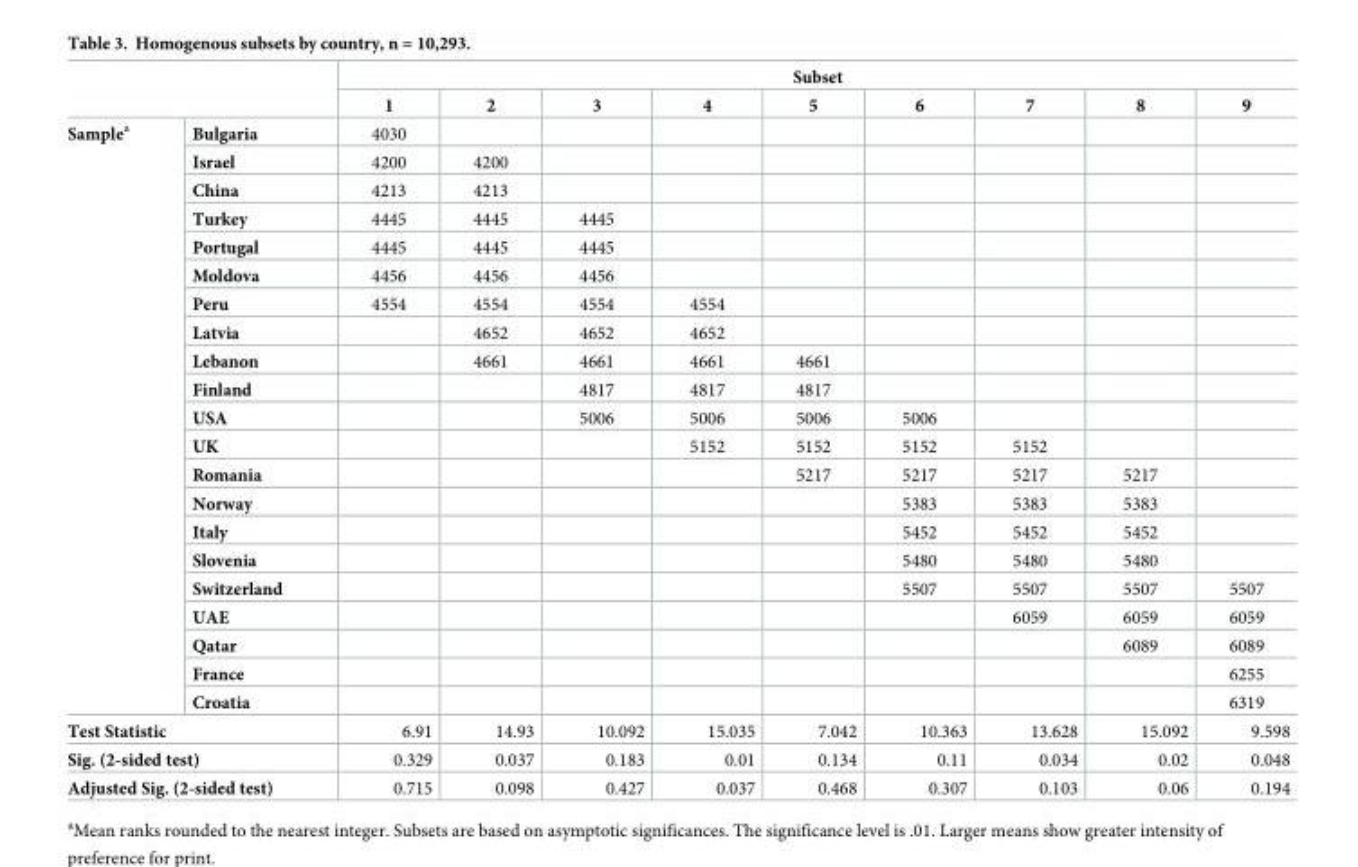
<table><thead><tr><td rowspan="2"></td><td rowspan="2"></td><td colspan="9">Subset</td></tr><tr><td>1</td><td>2</td><td>3</td><td>4</td><td>5</td><td>6</td><td>7</td><td>8</td><td>9</td></tr></thead><tbody><tr><td rowspan="21">Sample<sup>a</sup></td><td>Bulgaria</td><td>4030</td><td></td><td></td><td></td><td></td><td></td><td></td><td></td><td></td></tr><tr><td>Israel</td><td>4200</td><td>4200</td><td></td><td></td><td></td><td></td><td></td><td></td><td></td></tr><tr><td>China</td><td>4213</td><td>4213</td><td></td><td></td><td></td><td></td><td></td><td></td><td></td></tr><tr><td>Turkey</td><td>4445</td><td>4445</td><td>4445</td><td></td><td></td><td></td><td></td><td></td><td></td></tr><tr><td>Portugal</td><td>4445</td><td>4445</td><td>4445</td><td></td><td></td><td></td><td></td><td></td><td></td></tr><tr><td>Moldova</td><td>4456</td><td>4456</td><td>4456</td><td></td><td></td><td></td><td></td><td></td><td></td></tr><tr><td>Peru</td><td>4554</td><td>4554</td><td>4554</td><td>4554</td><td></td><td></td><td></td><td></td><td></td></tr><tr><td>Latvia</td><td></td><td>4652</td><td>4652</td><td>4652</td><td></td><td></td><td></td><td></td><td></td></tr><tr><td>Lebanon</td><td></td><td>4661</td><td>4661</td><td>4661</td><td>4661</td><td></td><td></td><td></td><td></td></tr><tr><td>Finland</td><td></td><td></td><td>4817</td><td>4817</td><td>4817</td><td></td><td></td><td></td><td></td></tr><tr><td>USA</td><td></td><td></td><td>5006</td><td>5006</td><td>5006</td><td>5006</td><td></td><td></td><td></td></tr><tr><td>UK</td><td></td><td></td><td></td><td>5152</td><td>5152</td><td>5152</td><td>5152</td><td></td><td></td></tr><tr><td>Romania</td><td></td><td></td><td></td><td></td><td>5217</td><td>5217</td><td>5217</td><td>5217</td><td></td></tr><tr><td>Norway</td><td></td><td></td><td></td><td></td><td></td><td>5383</td><td>5383</td><td>5383</td><td></td></tr><tr><td>Italy</td><td></td><td></td><td></td><td></td><td></td><td>5452</td><td>5452</td><td>5452</td><td></td></tr><tr><td>Slovenia</td><td></td><td></td><td></td><td></td><td></td><td>5480</td><td>5480</td><td>5480</td><td></td></tr><tr><td>Switzerland</td><td></td><td></td><td></td><td></td><td></td><td>5507</td><td>5507</td><td>5507</td><td>5507</td></tr><tr><td>UAE</td><td></td><td></td><td></td><td></td><td></td><td></td><td>6059</td><td>6059</td><td>6059</td></tr><tr><td>Qatar</td><td></td><td></td><td></td><td></td><td></td><td></td><td></td><td>6089</td><td>6089</td></tr><tr><td>France</td><td></td><td></td><td></td><td></td><td></td><td></td><td></td><td></td><td>6255</td></tr><tr><td>Croatia</td><td></td><td></td><td></td><td></td><td></td><td></td><td></td><td></td><td>6319</td></tr><tr><td colspan="2">Test Statistic</td><td>6.91</td><td>14.93</td><td>10.092</td><td>15.035</td><td>7.042</td><td>10.363</td><td>13.628</td><td>15.092</td><td>9.598</td></tr><tr><td colspan="2">Sig. (2-sided test)</td><td>0.329</td><td>0.037</td><td>0.183</td><td>0.01</td><td>0.134</td><td>0.11</td><td>0.034</td><td>0.02</td><td>0.048</td></tr><tr><td colspan="2">Adjusted Sig. (2-sided test)</td><td>0.715</td><td>0.098</td><td>0.427</td><td>0.037</td><td>0.468</td><td>0.307</td><td>0.103</td><td>0.06</td><td>0.194</td></tr></tbody></table>